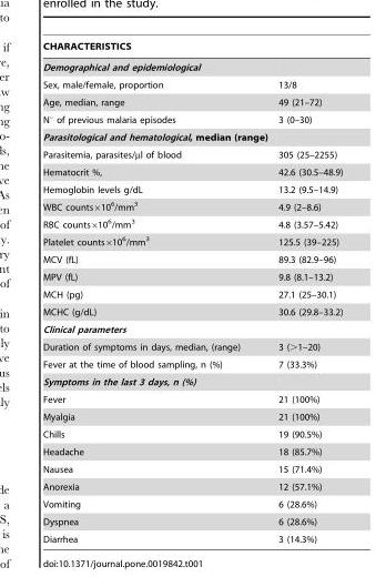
<table><thead><tr><td colspan="2">CHARACTERISTICS</td></tr><tr><td>Demographical and epidemiological</td><td></td></tr></thead><tbody><tr><td>Sex, male/female, proportion</td><td>13/8</td></tr><tr><td>Age, median, range</td><td>49 (21–72)</td></tr><tr><td>N° of previous malaria episodes</td><td>3 (0–30)</td></tr><tr><td colspan="2">Parasitological and hematological, median (range)</td></tr><tr><td>Parasitemia, parasites/µl of blood</td><td>305 (25–2255)</td></tr><tr><td>Hematocrit %,</td><td>42.6 (30.5–48.9)</td></tr><tr><td>Hemoglobin levels g/dL</td><td>13.2 (9.5–14.9)</td></tr><tr><td>WBC counts×10<sup>6</sup>/mm<sup>3</sup></td><td>4.9 (2–8.6)</td></tr><tr><td>RBC counts×10<sup>6</sup>/mm<sup>3</sup></td><td>4.8 (3.57–5.42)</td></tr><tr><td>Platelet counts×10<sup>6</sup>/mm<sup>3</sup></td><td>125.5 (39–225)</td></tr><tr><td>MCV (fL)</td><td>89.3 (82.9–96)</td></tr><tr><td>MPV (fL)</td><td>9.8 (8.1–13.2)</td></tr><tr><td>MCH (pg)</td><td>27.1 (25–30.1)</td></tr><tr><td>MCHC (g/dL)</td><td>30.6 (29.8–33.2)</td></tr><tr><td colspan="2">Clinical parameters</td></tr><tr><td>Duration of symptoms in days, median, (range)</td><td>3 (&gt;1–20)</td></tr><tr><td>Fever at the time of blood sampling, n (%)</td><td>7 (33.3%)</td></tr><tr><td colspan="2">Symptoms in the last 3 days, n (%)</td></tr><tr><td>Fever</td><td>21 (100%)</td></tr><tr><td>Myalgia</td><td>21 (100%)</td></tr><tr><td>Chills</td><td>19 (90.5%)</td></tr><tr><td>Headache</td><td>18 (85.7%)</td></tr><tr><td>Nausea</td><td>15 (71.4%)</td></tr><tr><td>Anorexia</td><td>12 (57.1%)</td></tr><tr><td>Vomiting</td><td>6 (28.6%)</td></tr><tr><td>Dyspnea</td><td>6 (28.6%)</td></tr><tr><td>Diarrhea</td><td>3 (14.3%)</td></tr></tbody></table>